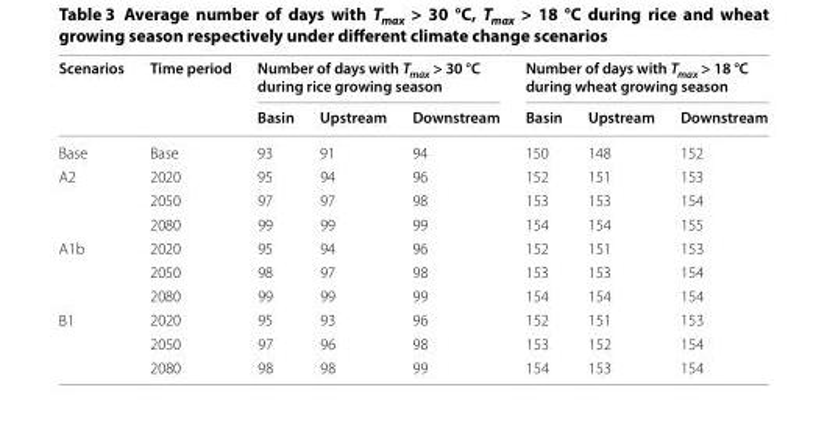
<table><thead><tr><td rowspan="2">Scenarios</td><td rowspan="2">Time period</td><td colspan="3">Number of days with T<sub>max</sub> &gt; 30 °C during rice growing season</td><td colspan="3">Number of days with T<sub>max</sub> &gt; 18 °C during wheat growing season</td></tr><tr><td>Basin</td><td>Upstream</td><td>Downstream</td><td>Basin</td><td>Upstream</td><td>Downstream</td></tr></thead><tbody><tr><td>Base</td><td>Base</td><td>93</td><td>91</td><td>94</td><td>150</td><td>148</td><td>152</td></tr><tr><td rowspan="3">A2</td><td>2020</td><td>95</td><td>94</td><td>96</td><td>152</td><td>151</td><td>153</td></tr><tr><td>2050</td><td>97</td><td>97</td><td>98</td><td>153</td><td>153</td><td>154</td></tr><tr><td>2080</td><td>99</td><td>99</td><td>99</td><td>154</td><td>154</td><td>155</td></tr><tr><td rowspan="3">A1b</td><td>2020</td><td>95</td><td>94</td><td>96</td><td>152</td><td>151</td><td>153</td></tr><tr><td>2050</td><td>98</td><td>97</td><td>98</td><td>153</td><td>153</td><td>154</td></tr><tr><td>2080</td><td>99</td><td>99</td><td>99</td><td>154</td><td>154</td><td>154</td></tr><tr><td rowspan="3">B1</td><td>2020</td><td>95</td><td>93</td><td>96</td><td>152</td><td>151</td><td>153</td></tr><tr><td>2050</td><td>97</td><td>96</td><td>98</td><td>153</td><td>152</td><td>154</td></tr><tr><td>2080</td><td>98</td><td>98</td><td>99</td><td>154</td><td>153</td><td>154</td></tr></tbody></table>